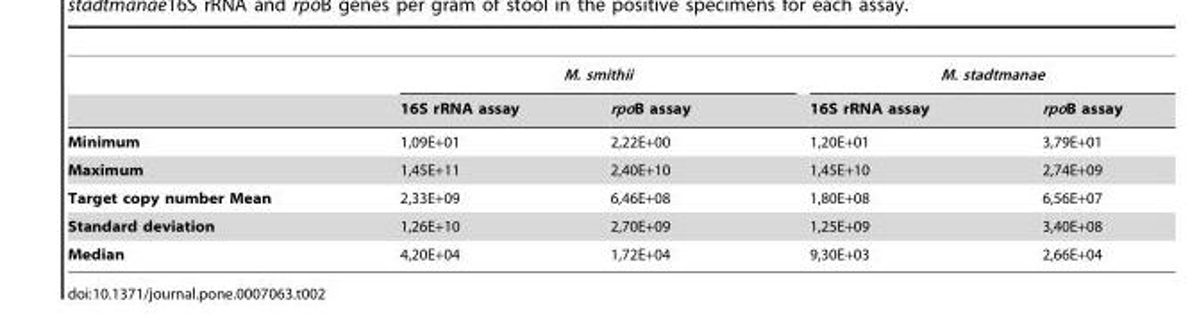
<table><thead><tr><td rowspan="2"></td><td colspan="2">M. smithii</td><td colspan="2">M. stadtmanae</td></tr><tr><td>16S rRNA assay</td><td>rpoB assay</td><td>16S rRNA assay</td><td>rpoB assay</td></tr></thead><tbody><tr><td>Minimum</td><td>1,09E+01</td><td>2,22E+00</td><td>1,20E+01</td><td>3,79E+01</td></tr><tr><td>Maximum</td><td>1,45E+11</td><td>2,40E+10</td><td>1,45E+10</td><td>2,74E+09</td></tr><tr><td>Target copy number Mean</td><td>2,33E+09</td><td>6,46E+08</td><td>1,80E+08</td><td>6,56E+07</td></tr><tr><td>Standard deviation</td><td>1,26E+10</td><td>2,70E+09</td><td>1,25E+09</td><td>3,40E+08</td></tr><tr><td>Median</td><td>4,20E+04</td><td>1,72E+04</td><td>9,30E+03</td><td>2,66E+04</td></tr></tbody></table>